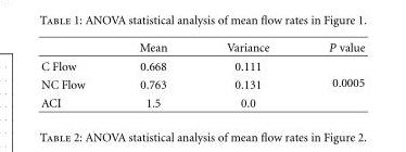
<table><thead><tr><td></td><td>Mean</td><td>Variance</td><td>P value</td></tr></thead><tbody><tr><td>C Flow</td><td>0.668</td><td>0.111</td><td rowspan="3">0.0005</td></tr><tr><td>NC Flow</td><td>0.763</td><td>0.131</td></tr><tr><td>ACI</td><td>1.5</td><td>0.0</td></tr></tbody></table>